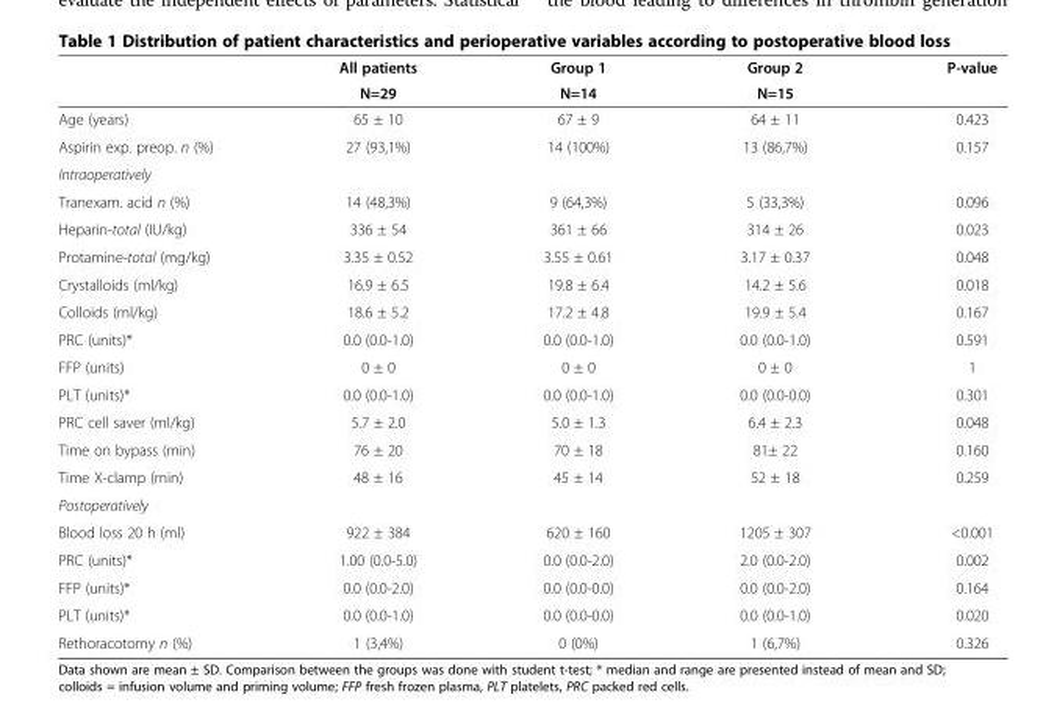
<table><thead><tr><td rowspan="2"></td><td rowspan="2">All patients N=29</td><td rowspan="2">Group 1 N=14</td><td rowspan="2">Group 2 N=15</td><td rowspan="2">P-value</td></tr><tr></tr></thead><tbody><tr><td>Age (years)</td><td>65 ± 10</td><td>67 ± 9</td><td>64 ± 11</td><td>0.423</td></tr><tr><td>Aspirin exp. preop. n (%)</td><td>27 (93,1%)</td><td>14 (100%)</td><td>13 (86,7%)</td><td>0.157</td></tr><tr><td colspan="5">Intraoperatively</td></tr><tr><td>Tranexam. acid n (%)</td><td>14 (48,3%)</td><td>9 (64,3%)</td><td>5 (33,3%)</td><td>0.096</td></tr><tr><td>Heparin-total (IU/kg)</td><td>336 ± 54</td><td>361 ± 66</td><td>314 ± 26</td><td>0.023</td></tr><tr><td>Protamine-total (mg/kg)</td><td>3.35 ± 0.52</td><td>3.55 ± 0.61</td><td>3.17 ± 0.37</td><td>0.048</td></tr><tr><td>Crystalloids (ml/kg)</td><td>16.9 ± 6.5</td><td>19.8 ± 6.4</td><td>14.2 ± 5.6</td><td>0.018</td></tr><tr><td>Colloids (ml/kg)</td><td>18.6 ± 5.2</td><td>17.2 ± 4.8</td><td>19.9 ± 5.4</td><td>0.167</td></tr><tr><td>PRC (units)*</td><td>0.0 (0.0-1.0)</td><td>0.0 (0.0-1.0)</td><td>0.0 (0.0-1.0)</td><td>0.591</td></tr><tr><td>FFP (units)</td><td>0 ± 0</td><td>0 ± 0</td><td>0 ± 0</td><td>1</td></tr><tr><td>PLT (units)*</td><td>0.0 (0.0-1.0)</td><td>0.0 (0.0-1.0)</td><td>0.0 (0.0-0.0)</td><td>0.301</td></tr><tr><td>PRC cell saver (ml/kg)</td><td>5.7 ± 2.0</td><td>5.0 ± 1.3</td><td>6.4 ± 2.3</td><td>0.048</td></tr><tr><td>Time on bypass (min)</td><td>76 ± 20</td><td>70 ± 18</td><td>81± 22</td><td>0.160</td></tr><tr><td>Time X-clamp (min)</td><td>48 ± 16</td><td>45 ± 14</td><td>52 ± 18</td><td>0.259</td></tr><tr><td colspan="5">Postoperatively</td></tr><tr><td>Blood loss 20 h (ml)</td><td>922 ± 384</td><td>620 ± 160</td><td>1205 ± 307</td><td>&lt;0.001</td></tr><tr><td>PRC (units)*</td><td>1.00 (0.0-5.0)</td><td>0.0 (0.0-2.0)</td><td>2.0 (0.0-2.0)</td><td>0.002</td></tr><tr><td>FFP (units)*</td><td>0.0 (0.0-2.0)</td><td>0.0 (0.0-0.0)</td><td>0.0 (0.0-2.0)</td><td>0.164</td></tr><tr><td>PLT (units)*</td><td>0.0 (0.0-1.0)</td><td>0.0 (0.0-0.0)</td><td>0.0 (0.0-1.0)</td><td>0.020</td></tr><tr><td>Rethoracotomy n (%)</td><td>1 (3,4%)</td><td>0 (0%)</td><td>1 (6,7%)</td><td>0.326</td></tr></tbody></table>